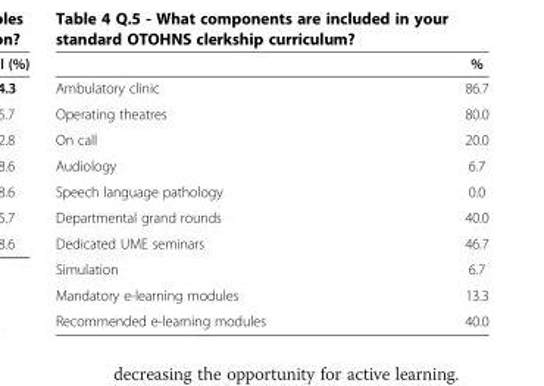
<table><thead><tr><td></td><td>%</td></tr></thead><tbody><tr><td>Ambulatory clinic</td><td>86.7</td></tr><tr><td>Operating theatres</td><td>80.0</td></tr><tr><td>On call</td><td>20.0</td></tr><tr><td>Audiology</td><td>6.7</td></tr><tr><td>Speech language pathology</td><td>0.0</td></tr><tr><td>Departmental grand rounds</td><td>40.0</td></tr><tr><td>Dedicated UME seminars</td><td>46.7</td></tr><tr><td>Simulation</td><td>6.7</td></tr><tr><td>Mandatory e-learning modules</td><td>13.3</td></tr><tr><td>Recommended e-learning modules</td><td>40.0</td></tr></tbody></table>